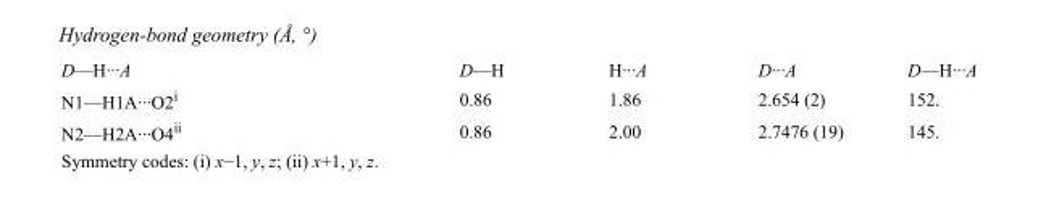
<table><tbody><tr><td>D—H···A</td><td>D—H</td><td>H···A</td><td>D···A</td><td>D—H···A</td></tr><tr><td>N1—H1A···O2<sup>i</sup></td><td>0.86</td><td>1.86</td><td>2.654 (2)</td><td>152.</td></tr><tr><td>N2—H2A···O4<sup>ii</sup></td><td>0.86</td><td>2.00</td><td>2.7476 (19)</td><td>145.</td></tr></tbody></table>